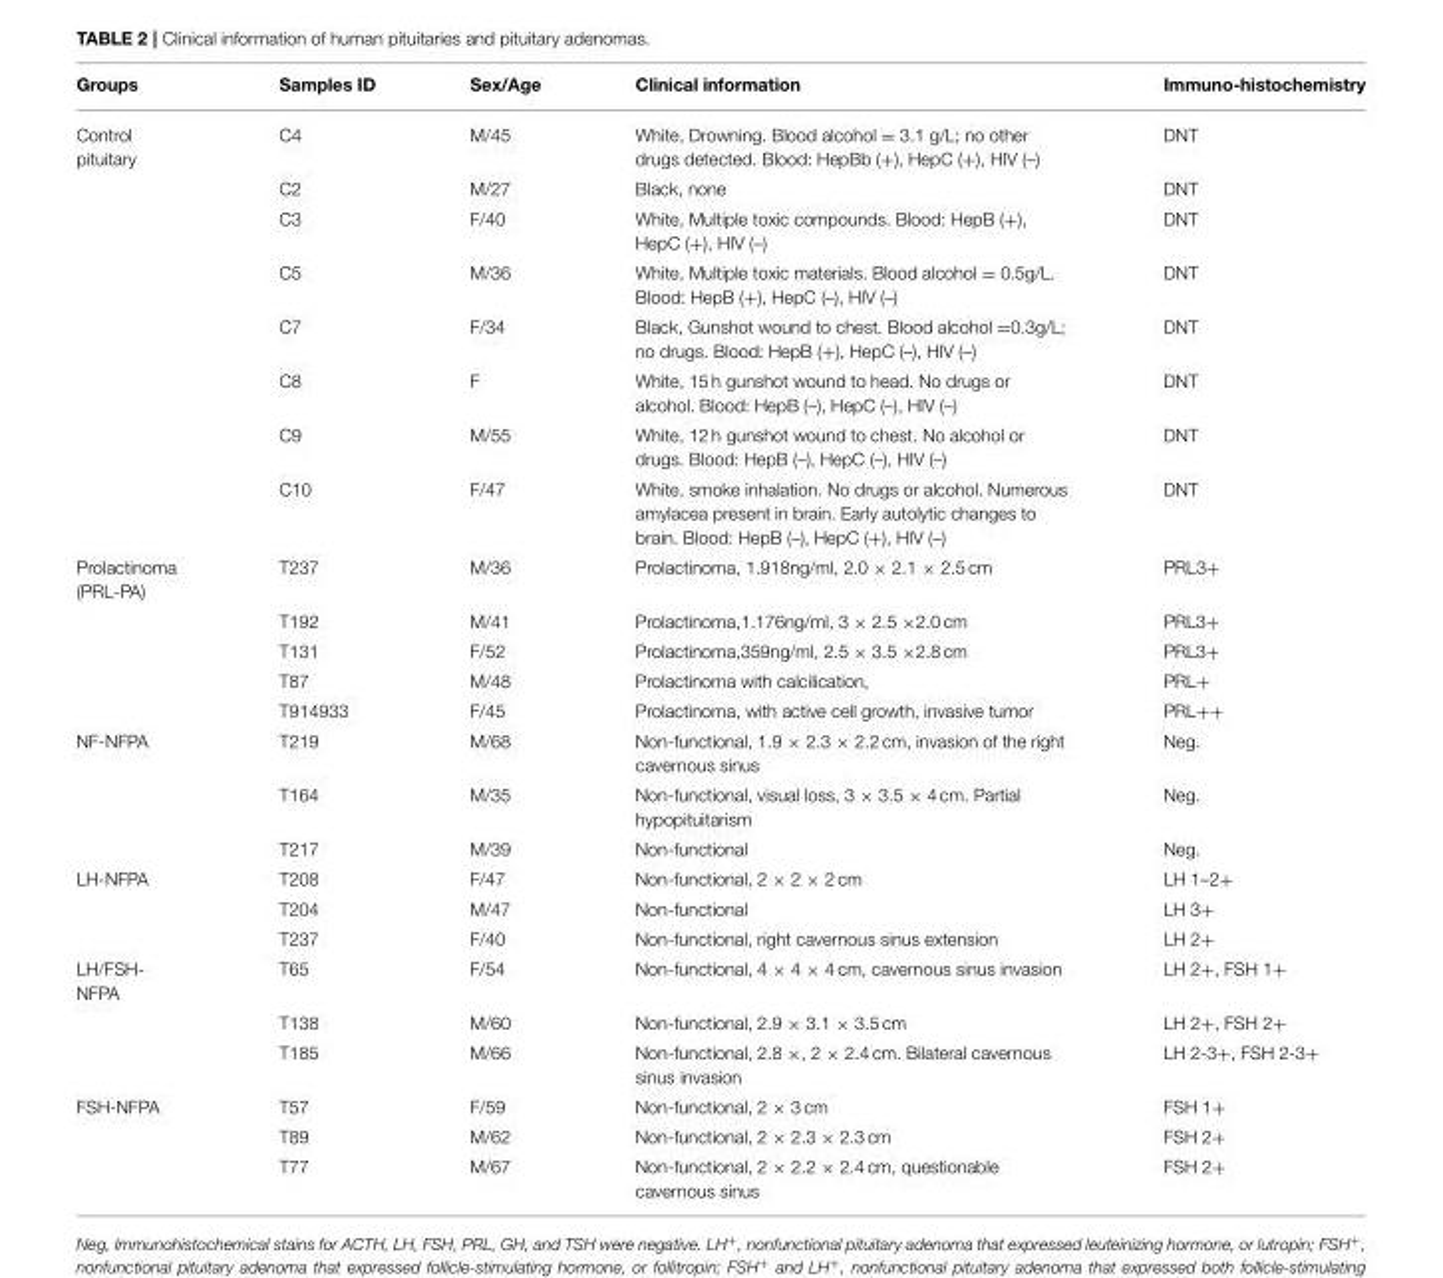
<table><thead><tr><td>Groups</td><td>Samples ID</td><td>Sex/Age</td><td>Clinical information</td><td>Immuno-histochemistry</td></tr></thead><tbody><tr><td rowspan="8">Control pituitary</td><td>C4</td><td>M/45</td><td>White, Drowning. Blood alcohol = 3.1 g/L; no other drugs detected. Blood: HepBb (+), HepC (+), HIV (–)</td><td>DNT</td></tr><tr><td>C2</td><td>M/27</td><td>Black, none</td><td>DNT</td></tr><tr><td>C3</td><td>F/40</td><td>White, Multiple toxic compounds. Blood: HepB (+), HepC (+), HIV (–)</td><td>DNT</td></tr><tr><td>C5</td><td>M/36</td><td>White, Multiple toxic materials. Blood alcohol = 0.5g/L. Blood: HepB (+), HepC (–), HIV (–)</td><td>DNT</td></tr><tr><td>C7</td><td>F/34</td><td>Black, Gunshot wound to chest. Blood alcohol =0.3g/L; no drugs. Blood: HepB (+), HepC (–), HIV (–)</td><td>DNT</td></tr><tr><td>C8</td><td>F</td><td>White, 15 h gunshot wound to head. No drugs or alcohol. Blood: HepB (–), HepC (–), HIV (–)</td><td>DNT</td></tr><tr><td>C9</td><td>M/55</td><td>White, 12 h gunshot wound to chest. No alcohol or drugs. Blood: HepB (–), HepC (–), HIV (–)</td><td>DNT</td></tr><tr><td>C10</td><td>F/47</td><td>White, smoke inhalation. No drugs or alcohol. Numerous amylacea present in brain. Early autolytic changes to brain. Blood: HepB (–), HepC (+), HIV (–)</td><td>DNT</td></tr><tr><td rowspan="5">Prolactinoma (PRL-PA)</td><td>T237</td><td>M/36</td><td>Prolactinoma, 1.918ng/ml, 2.0 × 2.1 × 2.5 cm</td><td>PRL3+</td></tr><tr><td>T192</td><td>M/41</td><td>Prolactinoma,1.176ng/ml, 3 × 2.5 ×2.0 cm</td><td>PRL3+</td></tr><tr><td>T131</td><td>F/52</td><td>Prolactinoma,359ng/ml, 2.5 × 3.5 ×2.8 cm</td><td>PRL3+</td></tr><tr><td>T87</td><td>M/48</td><td>Prolactinoma with calcilication,</td><td>PRL+</td></tr><tr><td>T914933</td><td>F/45</td><td>Prolactinoma, with active cell growth, invasive tumor</td><td>PRL++</td></tr><tr><td rowspan="3">NF-NFPA</td><td>T219</td><td>M/68</td><td>Non-functional, 1.9 × 2.3 × 2.2 cm, invasion of the right cavernous sinus</td><td>Neg.</td></tr><tr><td>T164</td><td>M/35</td><td>Non-functional, visual loss, 3 × 3.5 × 4 cm. Partial hypopituitarism</td><td>Neg.</td></tr><tr><td>T217</td><td>M/39</td><td>Non-functional</td><td>Neg.</td></tr><tr><td rowspan="3">LH-NFPA</td><td>T208</td><td>F/47</td><td>Non-functional, 2 × 2 × 2 cm</td><td>LH 1–2+</td></tr><tr><td>T204</td><td>M/47</td><td>Non-functional</td><td>LH 3+</td></tr><tr><td>T237</td><td>F/40</td><td>Non-functional, right cavernous sinus extension</td><td>LH 2+</td></tr><tr><td rowspan="3">LH/FSH- NFPA</td><td>T65</td><td>F/54</td><td>Non-functional, 4 × 4 × 4 cm, cavernous sinus invasion</td><td>LH 2+, FSH 1+</td></tr><tr><td>T138</td><td>M/60</td><td>Non-functional, 2.9 × 3.1 × 3.5 cm</td><td>LH 2+, FSH 2+</td></tr><tr><td>T185</td><td>M/66</td><td>Non-functional, 2.8 ×, 2 × 2.4 cm. Bilateral cavernous sinus invasion</td><td>LH 2-3+, FSH 2-3+</td></tr><tr><td rowspan="3">FSH-NFPA</td><td>T57</td><td>F/59</td><td>Non-functional, 2 × 3 cm</td><td>FSH 1+</td></tr><tr><td>T89</td><td>M/62</td><td>Non-functional, 2 × 2.3 × 2.3 cm</td><td>FSH 2+</td></tr><tr><td>T77</td><td>M/67</td><td>Non-functional, 2 × 2.2 × 2.4 cm, questionable cavernous sinus</td><td>FSH 2+</td></tr></tbody></table>